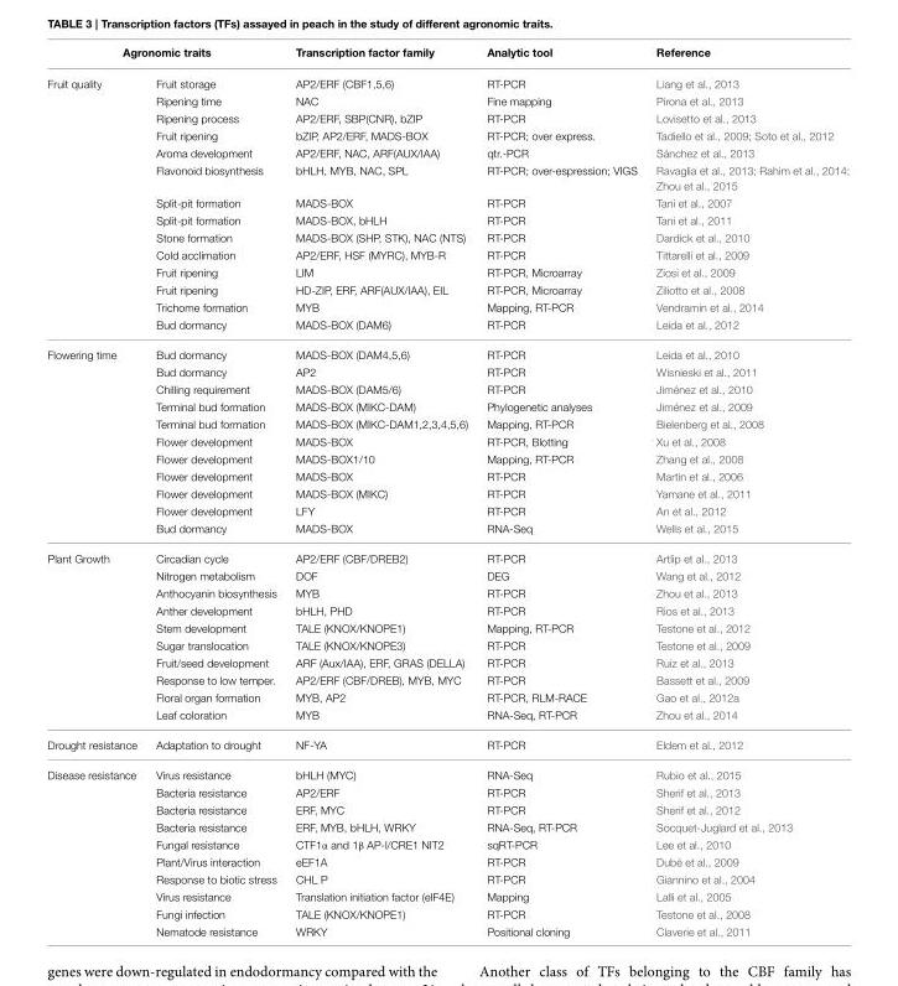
<table><thead><tr><td colspan="2">Agronomic traits</td><td rowspan="2">Transcription factor family AP2/ERF (CBF1,5,6)</td><td rowspan="2">Analytic tool RT-PCR</td><td rowspan="2">Reference Liang et al., 2013</td></tr><tr><td>Fruit quality</td><td>Fruit storage</td></tr></thead><tbody><tr><td></td><td>Ripening time</td><td>NAC</td><td>Fine mapping</td><td>Pirona et al., 2013</td></tr><tr><td></td><td>Ripening process</td><td>AP2/ERF, SBP(CNR), bZIP</td><td>RT-PCR</td><td>Lovisetto et al., 2013</td></tr><tr><td></td><td>Fruit ripening</td><td>bZIP, AP2/ERF, MADS-BOX</td><td>RT-PCR; over express.</td><td>Tadiello et al., 2009; Soto et al., 2012</td></tr><tr><td></td><td>Aroma development</td><td>AP2/ERF, NAC, ARF(AUX/IAA)</td><td>qtr.-PCR</td><td>Sánchez et al., 2013</td></tr><tr><td></td><td>Flavonoid biosynthesis</td><td>bHLH, MYB, NAC, SPL</td><td>RT-PCR; over-espression; VIGS</td><td>Ravaglia et al., 2013; Rahim et al., 2014; Zhou et al., 2015</td></tr><tr><td></td><td>Split-pit formation</td><td>MADS-BOX</td><td>RT-PCR</td><td>Tani et al., 2007</td></tr><tr><td></td><td>Split-pit formation</td><td>MADS-BOX, bHLH</td><td>RT-PCR</td><td>Tani et al., 2011</td></tr><tr><td></td><td>Stone formation</td><td>MADS-BOX (SHP, STK), NAC (NTS)</td><td>RT-PCR</td><td>Dardick et al., 2010</td></tr><tr><td></td><td>Cold acclimation</td><td>AP2/ERF, HSF (MYRC), MYB-R</td><td>RT-PCR</td><td>Tittarelli et al., 2009</td></tr><tr><td></td><td>Fruit ripening</td><td>LIM</td><td>RT-PCR, Microarray</td><td>Ziosi et al., 2009</td></tr><tr><td></td><td>Fruit ripening</td><td>HD-ZIP, ERF, ARF(AUX/IAA), EIL</td><td>RT-PCR, Microarray</td><td>Ziliotto et al., 2008</td></tr><tr><td></td><td>Trichome formation</td><td>MYB</td><td>Mapping, RT-PCR</td><td>Vendramin et al., 2014</td></tr><tr><td></td><td>Bud dormancy</td><td>MADS-BOX (DAM6)</td><td>RT-PCR</td><td>Leida et al., 2012</td></tr><tr><td rowspan="11">Flowering time</td><td>Bud dormancy</td><td>MADS-BOX (DAM4,5,6)</td><td>RT-PCR</td><td>Leida et al., 2010</td></tr><tr><td>Bud dormancy</td><td>AP2</td><td>RT-PCR</td><td>Wisnieski et al., 2011</td></tr><tr><td>Chilling requirement</td><td>MADS-BOX (DAM5/6)</td><td>RT-PCR</td><td>Jiménez et al., 2010</td></tr><tr><td>Terminal bud formation</td><td>MADS-BOX (MIKC-DAM)</td><td>Phylogenetic analyses</td><td>Jiménez et al., 2009</td></tr><tr><td>Terminal bud formation</td><td>MADS-BOX (MIKC-DAM1,2,3,4,5,6)</td><td>Mapping, RT-PCR</td><td>Bielenberg et al., 2008</td></tr><tr><td>Flower development</td><td>MADS-BOX</td><td>RT-PCR, Blotting</td><td>Xu et al., 2008</td></tr><tr><td>Flower development</td><td>MADS-BOX1/10</td><td>Mapping, RT-PCR</td><td>Zhang et al., 2008</td></tr><tr><td>Flower development</td><td>MADS-BOX</td><td>RT-PCR</td><td>Martin et al., 2006</td></tr><tr><td>Flower development</td><td>MADS-BOX (MIKC)</td><td>RT-PCR</td><td>Yamane et al., 2011</td></tr><tr><td>Flower development</td><td>LFY</td><td>RT-PCR</td><td>An et al., 2012</td></tr><tr><td>Bud dormancy</td><td>MADS-BOX</td><td>RNA-Seq</td><td>Wells et al., 2015</td></tr><tr><td rowspan="10">Plant Growth</td><td>Circadian cycle</td><td>AP2/ERF (CBF/DREB2)</td><td>RT-PCR</td><td>Artlip et al., 2013</td></tr><tr><td>Nitrogen metabolism</td><td>DOF</td><td>DEG</td><td>Wang et al., 2012</td></tr><tr><td>Anthocyanin biosynthesis</td><td>MYB</td><td>RT-PCR</td><td>Zhou et al., 2013</td></tr><tr><td>Anther development</td><td>bHLH, PHD</td><td>RT-PCR</td><td>Rios et al., 2013</td></tr><tr><td>Stem development</td><td>TALE (KNOX/KNOPE1)</td><td>Mapping, RT-PCR</td><td>Testone et al., 2012</td></tr><tr><td>Sugar translocation</td><td>TALE (KNOX/KNOPE3)</td><td>RT-PCR</td><td>Testone et al., 2009</td></tr><tr><td>Fruit/seed development</td><td>ARF (Aux/IAA), ERF, GRAS (DELLA)</td><td>RT-PCR</td><td>Ruiz et al., 2013</td></tr><tr><td>Response to low temper.</td><td>AP2/ERF (CBF/DREB), MYB, MYC</td><td>RT-PCR</td><td>Bassett et al., 2009</td></tr><tr><td>Floral organ formation</td><td>MYB, AP2</td><td>RT-PCR, RLM-RACE</td><td>Gao et al., 2012a</td></tr><tr><td>Leaf coloration</td><td>MYB</td><td>RNA-Seq, RT-PCR</td><td>Zhou et al., 2014</td></tr><tr><td>Drought resistance</td><td>Adaptation to drought</td><td>NF-YA</td><td>RT-PCR</td><td>Eldem et al., 2012</td></tr><tr><td rowspan="10">Disease resistance</td><td>Virus resistance</td><td>bHLH (MYC)</td><td>RNA-Seq</td><td>Rubio et al., 2015</td></tr><tr><td>Bacteria resistance</td><td>AP2/ERF</td><td>RT-PCR</td><td>Sherif et al., 2013</td></tr><tr><td>Bacteria resistance</td><td>ERF, MYC</td><td>RT-PCR</td><td>Sherif et al., 2012</td></tr><tr><td>Bacteria resistance</td><td>ERF, MYB, bHLH, WRKY</td><td>RNA-Seq, RT-PCR</td><td>Socquet-Juglard et al., 2013</td></tr><tr><td>Fungal resistance</td><td>CTF1α and 1β AP-l/CRE1 NIT2</td><td>sqRT-PCR</td><td>Lee et al., 2010</td></tr><tr><td>Plant/Virus interaction</td><td>eEF1A</td><td>RT-PCR</td><td>Dubé et al., 2009</td></tr><tr><td>Response to biotic stress</td><td>CHL P</td><td>RT-PCR</td><td>Giannino et al., 2004</td></tr><tr><td>Virus resistance</td><td>Translation initiation factor (eIF4E)</td><td>Mapping</td><td>Lalli et al., 2005</td></tr><tr><td>Fungi infection</td><td>TALE (KNOX/KNOPE1)</td><td>RT-PCR</td><td>Testone et al., 2008</td></tr><tr><td>Nematode resistance</td><td>WRKY</td><td>Positional cloning</td><td>Claverie et al., 2011</td></tr></tbody></table>